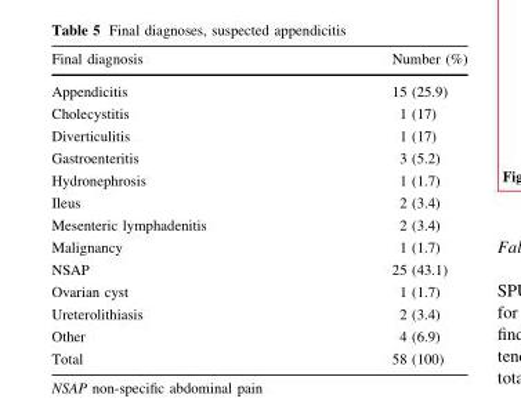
<table><thead><tr><td>Final diagnosis</td><td>Number (%)</td></tr></thead><tbody><tr><td>Appendicitis</td><td>15 (25.9)</td></tr><tr><td>Cholecystitis</td><td>1 (17)</td></tr><tr><td>Diverticulitis</td><td>1 (17)</td></tr><tr><td>Gastroenteritis</td><td>3 (5.2)</td></tr><tr><td>Hydronephrosis</td><td>1 (1.7)</td></tr><tr><td>Ileus</td><td>2 (3.4)</td></tr><tr><td>Mesenteric lymphadenitis</td><td>2 (3.4)</td></tr><tr><td>Malignancy</td><td>1 (1.7)</td></tr><tr><td>NSAP</td><td>25 (43.1)</td></tr><tr><td>Ovarian cyst</td><td>1 (1.7)</td></tr><tr><td>Ureterolithiasis</td><td>2 (3.4)</td></tr><tr><td>Other</td><td>4 (6.9)</td></tr><tr><td>Total</td><td>58 (100)</td></tr></tbody></table>